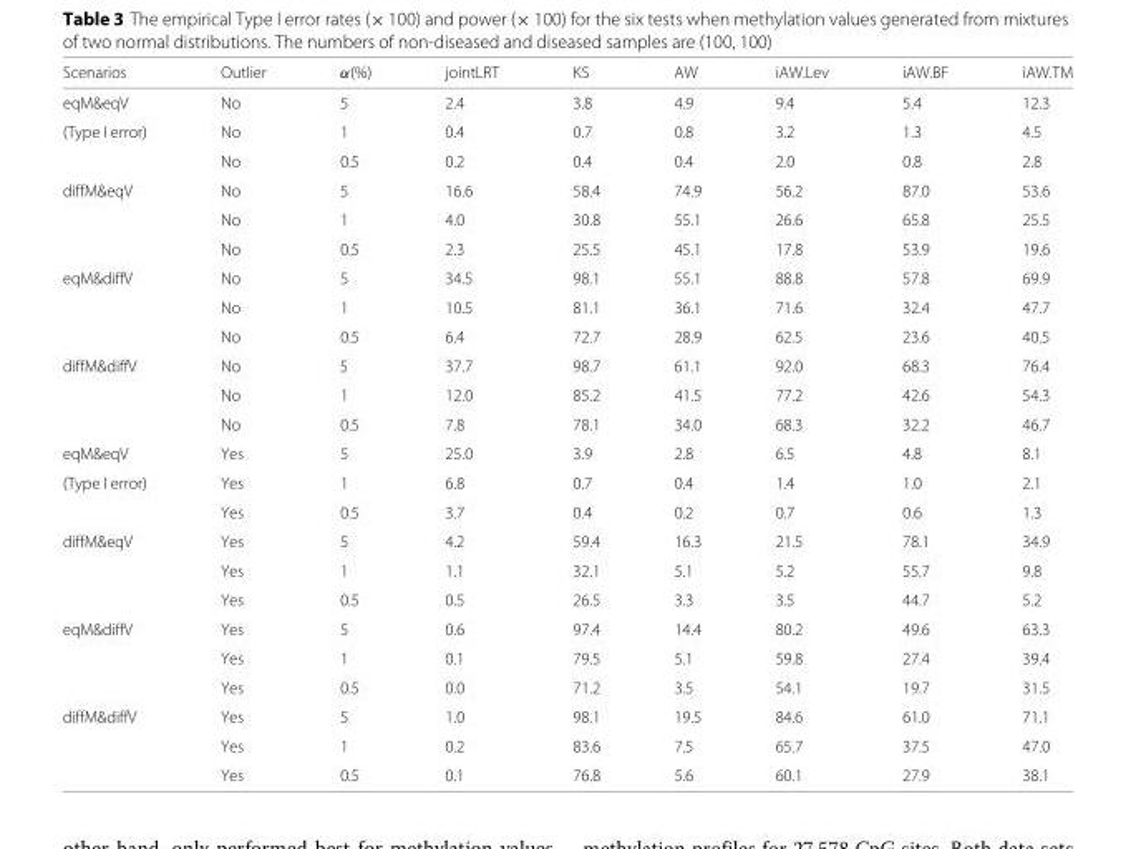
<table><thead><tr><td>Scenarios</td><td>Outlier</td><td>α(%)</td><td>jointLRT</td><td>KS</td><td>AW</td><td>iAW.Lev</td><td>iAW.BF</td><td>iAW.TM</td></tr></thead><tbody><tr><td>eqM&amp;eqV</td><td>No</td><td>5</td><td>2.4</td><td>3.8</td><td>4.9</td><td>9.4</td><td>5.4</td><td>12.3</td></tr><tr><td rowspan="2">(Type I error)</td><td>No</td><td>1</td><td>0.4</td><td>0.7</td><td>0.8</td><td>3.2</td><td>1.3</td><td>4.5</td></tr><tr><td>No</td><td>0.5</td><td>0.2</td><td>0.4</td><td>0.4</td><td>2.0</td><td>0.8</td><td>2.8</td></tr><tr><td rowspan="3">diffM&amp;eqV</td><td>No</td><td>5</td><td>16.6</td><td>58.4</td><td>74.9</td><td>56.2</td><td>87.0</td><td>53.6</td></tr><tr><td>No</td><td>1</td><td>4.0</td><td>30.8</td><td>55.1</td><td>26.6</td><td>65.8</td><td>25.5</td></tr><tr><td>No</td><td>0.5</td><td>2.3</td><td>25.5</td><td>45.1</td><td>17.8</td><td>53.9</td><td>19.6</td></tr><tr><td rowspan="3">eqM&amp;diffV</td><td>No</td><td>5</td><td>34.5</td><td>98.1</td><td>55.1</td><td>88.8</td><td>57.8</td><td>69.9</td></tr><tr><td>No</td><td>1</td><td>10.5</td><td>81.1</td><td>36.1</td><td>71.6</td><td>32.4</td><td>47.7</td></tr><tr><td>No</td><td>0.5</td><td>6.4</td><td>72.7</td><td>28.9</td><td>62.5</td><td>23.6</td><td>40.5</td></tr><tr><td rowspan="3">diffM&amp;diffV</td><td>No</td><td>5</td><td>37.7</td><td>98.7</td><td>61.1</td><td>92.0</td><td>68.3</td><td>76.4</td></tr><tr><td>No</td><td>1</td><td>12.0</td><td>85.2</td><td>41.5</td><td>77.2</td><td>42.6</td><td>54.3</td></tr><tr><td>No</td><td>0.5</td><td>7.8</td><td>78.1</td><td>34.0</td><td>68.3</td><td>32.2</td><td>46.7</td></tr><tr><td>eqM&amp;eqV</td><td>Yes</td><td>5</td><td>25.0</td><td>3.9</td><td>2.8</td><td>6.5</td><td>4.8</td><td>8.1</td></tr><tr><td rowspan="2">(Type I error)</td><td>Yes</td><td>1</td><td>6.8</td><td>0.7</td><td>0.4</td><td>1.4</td><td>1.0</td><td>2.1</td></tr><tr><td>Yes</td><td>0.5</td><td>3.7</td><td>0.4</td><td>0.2</td><td>0.7</td><td>0.6</td><td>1.3</td></tr><tr><td rowspan="3">diffM&amp;eqV</td><td>Yes</td><td>5</td><td>4.2</td><td>59.4</td><td>16.3</td><td>21.5</td><td>78.1</td><td>34.9</td></tr><tr><td>Yes</td><td>1</td><td>1.1</td><td>32.1</td><td>5.1</td><td>5.2</td><td>55.7</td><td>9.8</td></tr><tr><td>Yes</td><td>0.5</td><td>0.5</td><td>26.5</td><td>3.3</td><td>3.5</td><td>44.7</td><td>5.2</td></tr><tr><td rowspan="3">eqM&amp;diffV</td><td>Yes</td><td>5</td><td>0.6</td><td>97.4</td><td>14.4</td><td>80.2</td><td>49.6</td><td>63.3</td></tr><tr><td>Yes</td><td>1</td><td>0.1</td><td>79.5</td><td>5.1</td><td>59.8</td><td>27.4</td><td>39.4</td></tr><tr><td>Yes</td><td>0.5</td><td>0.0</td><td>71.2</td><td>3.5</td><td>54.1</td><td>19.7</td><td>31.5</td></tr><tr><td rowspan="3">diffM&amp;diffV</td><td>Yes</td><td>5</td><td>1.0</td><td>98.1</td><td>19.5</td><td>84.6</td><td>61.0</td><td>71.1</td></tr><tr><td>Yes</td><td>1</td><td>0.2</td><td>83.6</td><td>7.5</td><td>65.7</td><td>37.5</td><td>47.0</td></tr><tr><td>Yes</td><td>0.5</td><td>0.1</td><td>76.8</td><td>5.6</td><td>60.1</td><td>27.9</td><td>38.1</td></tr></tbody></table>